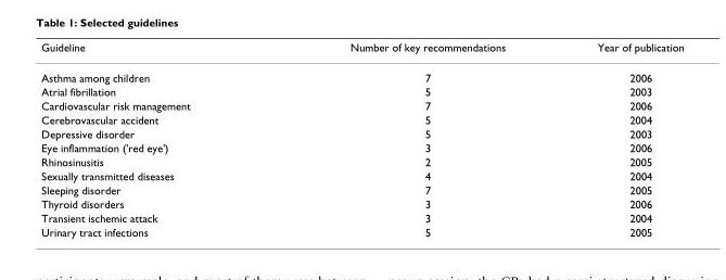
<table><thead><tr><td>Guideline</td><td>Number of key recommendations</td><td>Year of publication</td></tr></thead><tbody><tr><td>Asthma among children</td><td>7</td><td>2006</td></tr><tr><td>Atrial fibrillation</td><td>5</td><td>2003</td></tr><tr><td>Cardiovascular risk management</td><td>7</td><td>2006</td></tr><tr><td>Cerebrovascular accident</td><td>5</td><td>2004</td></tr><tr><td>Depressive disorder</td><td>5</td><td>2003</td></tr><tr><td>Eye inflammation (&#x27;red eye&#x27;)</td><td>3</td><td>2006</td></tr><tr><td>Rhinosinusitis</td><td>2</td><td>2005</td></tr><tr><td>Sexually transmitted diseases</td><td>4</td><td>2004</td></tr><tr><td>Sleeping disorder</td><td>7</td><td>2005</td></tr><tr><td>Thyroid disorders</td><td>3</td><td>2006</td></tr><tr><td>Transient ischemic attack</td><td>3</td><td>2004</td></tr><tr><td>Urinary tract infections</td><td>5</td><td>2005</td></tr></tbody></table>